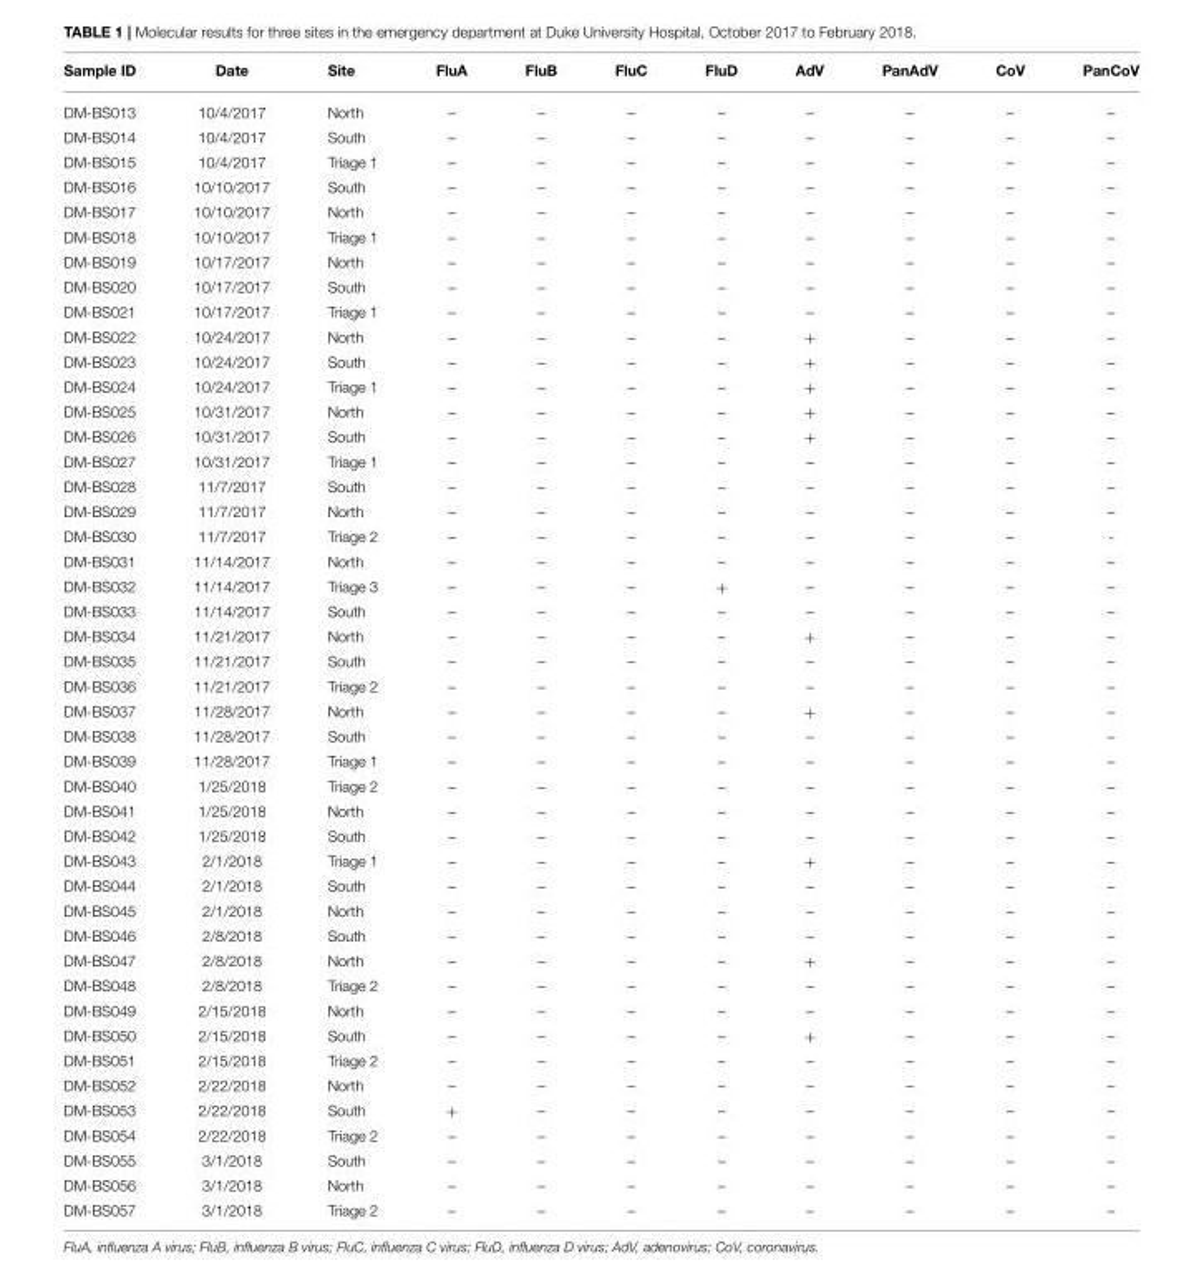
<table><thead><tr><td>Sample ID</td><td>Date</td><td>Site</td><td>FluA</td><td>FluB</td><td>FluC</td><td>FluD</td><td>AdV</td><td>PanAdV</td><td>CoV</td><td>PanCoV</td></tr></thead><tbody><tr><td>DM-BS013</td><td>10/4/2017</td><td>North</td><td>–</td><td>–</td><td>–</td><td>–</td><td>–</td><td>–</td><td>–</td><td>–</td></tr><tr><td>DM-BS014</td><td>10/4/2017</td><td>South</td><td>–</td><td>–</td><td>–</td><td>–</td><td>–</td><td>–</td><td>–</td><td>–</td></tr><tr><td>DM-BS015</td><td>10/4/2017</td><td>Triage 1</td><td>–</td><td>–</td><td>–</td><td>–</td><td>–</td><td>–</td><td>–</td><td>–</td></tr><tr><td>DM-BS016</td><td>10/10/2017</td><td>South</td><td>–</td><td>–</td><td>–</td><td>–</td><td>–</td><td>–</td><td>–</td><td>–</td></tr><tr><td>DM-BS017</td><td>10/10/2017</td><td>North</td><td>–</td><td>–</td><td>–</td><td>–</td><td>–</td><td>–</td><td>–</td><td>–</td></tr><tr><td>DM-BS018</td><td>10/10/2017</td><td>Triage 1</td><td>–</td><td>–</td><td>–</td><td>–</td><td>–</td><td>–</td><td>–</td><td>–</td></tr><tr><td>DM-BS019</td><td>10/17/2017</td><td>North</td><td>–</td><td>–</td><td>–</td><td>–</td><td>–</td><td>–</td><td>–</td><td>–</td></tr><tr><td>DM-BS020</td><td>10/17/2017</td><td>South</td><td>–</td><td>–</td><td>–</td><td>–</td><td>–</td><td>–</td><td>–</td><td>–</td></tr><tr><td>DM-BS021</td><td>10/17/2017</td><td>Triage 1</td><td>–</td><td>–</td><td>–</td><td>–</td><td>–</td><td>–</td><td>–</td><td>–</td></tr><tr><td>DM-BS022</td><td>10/24/2017</td><td>North</td><td>–</td><td>–</td><td>–</td><td>–</td><td>+</td><td>–</td><td>–</td><td>–</td></tr><tr><td>DM-BS023</td><td>10/24/2017</td><td>South</td><td>–</td><td>–</td><td>–</td><td>–</td><td>+</td><td>–</td><td>–</td><td>–</td></tr><tr><td>DM-BS024</td><td>10/24/2017</td><td>Triage 1</td><td>–</td><td>–</td><td>–</td><td>–</td><td>+</td><td>–</td><td>–</td><td>–</td></tr><tr><td>DM-BS025</td><td>10/31/2017</td><td>North</td><td>–</td><td>–</td><td>–</td><td>–</td><td>+</td><td>–</td><td>–</td><td>–</td></tr><tr><td>DM-BS026</td><td>10/31/2017</td><td>South</td><td>–</td><td>–</td><td>–</td><td>–</td><td>+</td><td>–</td><td>–</td><td>–</td></tr><tr><td>DM-BS027</td><td>10/31/2017</td><td>Triage 1</td><td>–</td><td>–</td><td>–</td><td>–</td><td>–</td><td>–</td><td>–</td><td>–</td></tr><tr><td>DM-BS028</td><td>11/7/2017</td><td>South</td><td>–</td><td>–</td><td>–</td><td>–</td><td>–</td><td>–</td><td>–</td><td>–</td></tr><tr><td>DM-BS029</td><td>11/7/2017</td><td>North</td><td>–</td><td>–</td><td>–</td><td>–</td><td>–</td><td>–</td><td>–</td><td>–</td></tr><tr><td>DM-BS030</td><td>11/7/2017</td><td>Triage 2</td><td>–</td><td>–</td><td>–</td><td>–</td><td>–</td><td>–</td><td>–</td><td>-</td></tr><tr><td>DM-BS031</td><td>11/14/2017</td><td>North</td><td>–</td><td>–</td><td>–</td><td>–</td><td>–</td><td>–</td><td>–</td><td>–</td></tr><tr><td>DM-BS032</td><td>11/14/2017</td><td>Triage 3</td><td>–</td><td>–</td><td>–</td><td>+</td><td>–</td><td>–</td><td>–</td><td>–</td></tr><tr><td>DM-BS033</td><td>11/14/2017</td><td>South</td><td>–</td><td>–</td><td>–</td><td>–</td><td>–</td><td>–</td><td>–</td><td>–</td></tr><tr><td>DM-BS034</td><td>11/21/2017</td><td>North</td><td>–</td><td>–</td><td>–</td><td>–</td><td>+</td><td>–</td><td>–</td><td>–</td></tr><tr><td>DM-BS035</td><td>11/21/2017</td><td>South</td><td>–</td><td>–</td><td>–</td><td>–</td><td>–</td><td>–</td><td>–</td><td>–</td></tr><tr><td>DM-BS036</td><td>11/21/2017</td><td>Triage 2</td><td>–</td><td>–</td><td>–</td><td>–</td><td>–</td><td>–</td><td>–</td><td>–</td></tr><tr><td>DM-BS037</td><td>11/28/2017</td><td>North</td><td>–</td><td>–</td><td>–</td><td>–</td><td>+</td><td>–</td><td>–</td><td>–</td></tr><tr><td>DM-BS038</td><td>11/28/2017</td><td>South</td><td>–</td><td>–</td><td>–</td><td>–</td><td>–</td><td>–</td><td>–</td><td>–</td></tr><tr><td>DM-BS039</td><td>11/28/2017</td><td>Triage 1</td><td>–</td><td>–</td><td>–</td><td>–</td><td>–</td><td>–</td><td>–</td><td>–</td></tr><tr><td>DM-BS040</td><td>1/25/2018</td><td>Triage 2</td><td>–</td><td>–</td><td>–</td><td>–</td><td>–</td><td>–</td><td>–</td><td>–</td></tr><tr><td>DM-BS041</td><td>1/25/2018</td><td>North</td><td>–</td><td>–</td><td>–</td><td>–</td><td>–</td><td>–</td><td>–</td><td>–</td></tr><tr><td>DM-BS042</td><td>1/25/2018</td><td>South</td><td>–</td><td>–</td><td>–</td><td>–</td><td>–</td><td>–</td><td>–</td><td>–</td></tr><tr><td>DM-BS043</td><td>2/1/2018</td><td>Triage 1</td><td>–</td><td>–</td><td>–</td><td>–</td><td>+</td><td>–</td><td>–</td><td>–</td></tr><tr><td>DM-BS044</td><td>2/1/2018</td><td>South</td><td>–</td><td>–</td><td>–</td><td>–</td><td>–</td><td>–</td><td>–</td><td>–</td></tr><tr><td>DM-BS045</td><td>2/1/2018</td><td>North</td><td>–</td><td>–</td><td>–</td><td>–</td><td>–</td><td>–</td><td>–</td><td>–</td></tr><tr><td>DM-BS046</td><td>2/8/2018</td><td>South</td><td>–</td><td>–</td><td>–</td><td>–</td><td>–</td><td>–</td><td>–</td><td>–</td></tr><tr><td>DM-BS047</td><td>2/8/2018</td><td>North</td><td>–</td><td>–</td><td>–</td><td>–</td><td>+</td><td>–</td><td>–</td><td>–</td></tr><tr><td>DM-BS048</td><td>2/8/2018</td><td>Triage 2</td><td>–</td><td>–</td><td>–</td><td>–</td><td>–</td><td>–</td><td>–</td><td>–</td></tr><tr><td>DM-BS049</td><td>2/15/2018</td><td>North</td><td>–</td><td>–</td><td>–</td><td>–</td><td>–</td><td>–</td><td>–</td><td>–</td></tr><tr><td>DM-BS050</td><td>2/15/2018</td><td>South</td><td>–</td><td>–</td><td>–</td><td>–</td><td>+</td><td>–</td><td>–</td><td>–</td></tr><tr><td>DM-BS051</td><td>2/15/2018</td><td>Triage 2</td><td>–</td><td>–</td><td>–</td><td>–</td><td>–</td><td>–</td><td>–</td><td>–</td></tr><tr><td>DM-BS052</td><td>2/22/2018</td><td>North</td><td>–</td><td>–</td><td>–</td><td>–</td><td>–</td><td>–</td><td>–</td><td>–</td></tr><tr><td>DM-BS053</td><td>2/22/2018</td><td>South</td><td>+</td><td>–</td><td>–</td><td>–</td><td>–</td><td>–</td><td>–</td><td>–</td></tr><tr><td>DM-BS054</td><td>2/22/2018</td><td>Triage 2</td><td>–</td><td>–</td><td>–</td><td>–</td><td>–</td><td>–</td><td>–</td><td>–</td></tr><tr><td>DM-BS055</td><td>3/1/2018</td><td>South</td><td>–</td><td>–</td><td>–</td><td>–</td><td>–</td><td>–</td><td>–</td><td>–</td></tr><tr><td>DM-BS056</td><td>3/1/2018</td><td>North</td><td>–</td><td>–</td><td>–</td><td>–</td><td>–</td><td>–</td><td>–</td><td>–</td></tr><tr><td>DM-BS057</td><td>3/1/2018</td><td>Triage 2</td><td>–</td><td>–</td><td>–</td><td>–</td><td>–</td><td>–</td><td>–</td><td>–</td></tr></tbody></table>